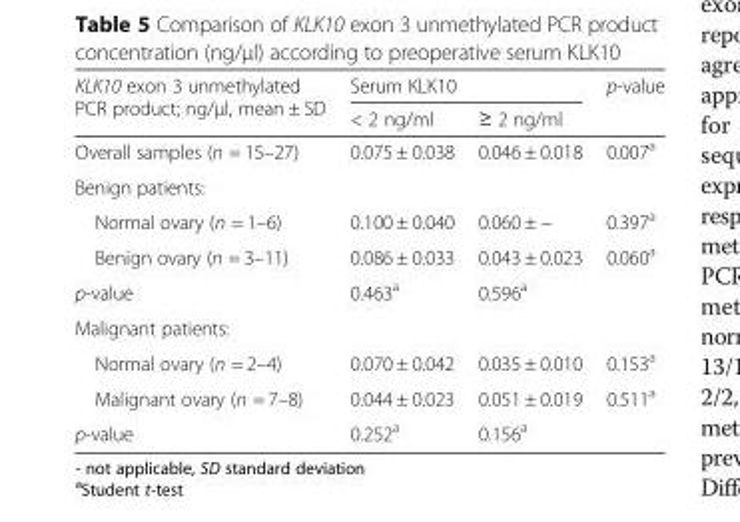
<table><thead><tr><td rowspan="2">KLK10 exon 3 unmethylated PCR product; ng/μl, mean ± SD</td><td colspan="2">Serum KLK10</td><td rowspan="2">p-value</td></tr><tr><td>&lt; 2 ng/ml</td><td>≥ 2 ng/ml</td></tr></thead><tbody><tr><td>Overall samples (n = 15–27)</td><td>0.075 ± 0.038</td><td>0.046 ± 0.018</td><td>0.007<sup>a</sup></td></tr><tr><td colspan="4">Benign patients:</td></tr><tr><td>Normal ovary (n = 1–6)</td><td>0.100 ± 0.040</td><td>0.060 ± −</td><td>0.397<sup>a</sup></td></tr><tr><td>Benign ovary (n = 3–11)</td><td>0.086 ± 0.033</td><td>0.043 ± 0.023</td><td>0.060<sup>a</sup></td></tr><tr><td>p-value</td><td>0.463<sup>a</sup></td><td>0.596<sup>a</sup></td><td></td></tr><tr><td colspan="4">Malignant patients:</td></tr><tr><td>Normal ovary (n = 2–4)</td><td>0.070 ± 0.042</td><td>0.035 ± 0.010</td><td>0.153<sup>a</sup></td></tr><tr><td>Malignant ovary (n = 7–8)</td><td>0.044 ± 0.023</td><td>0.051 ± 0.019</td><td>0.511<sup>a</sup></td></tr><tr><td>p-value</td><td>0.252<sup>a</sup></td><td>0.156<sup>a</sup></td><td></td></tr></tbody></table>